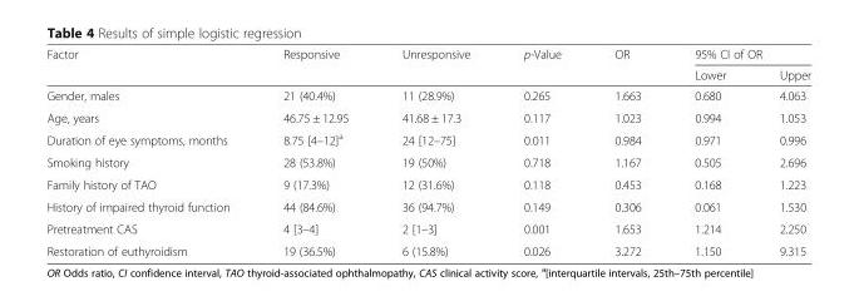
<table><thead><tr><td rowspan="2">Factor</td><td rowspan="2">Responsive</td><td rowspan="2">Unresponsive</td><td rowspan="2">p-Value</td><td rowspan="2">OR</td><td colspan="2">95% CI of OR</td></tr><tr><td>Lower</td><td>Upper</td></tr></thead><tbody><tr><td>Gender, males</td><td>21 (40.4%)</td><td>11 (28.9%)</td><td>0.265</td><td>1.663</td><td>0.680</td><td>4.063</td></tr><tr><td>Age, years</td><td>46.75 ± 12.95</td><td>41.68 ± 17.3</td><td>0.117</td><td>1.023</td><td>0.994</td><td>1.053</td></tr><tr><td>Duration of eye symptoms, months</td><td>8.75 [4–12]<sup>a</sup></td><td>24 [12–75]</td><td>0.011</td><td>0.984</td><td>0.971</td><td>0.996</td></tr><tr><td>Smoking history</td><td>28 (53.8%)</td><td>19 (50%)</td><td>0.718</td><td>1.167</td><td>0.505</td><td>2.696</td></tr><tr><td>Family history of TAO</td><td>9 (17.3%)</td><td>12 (31.6%)</td><td>0.118</td><td>0.453</td><td>0.168</td><td>1.223</td></tr><tr><td>History of impaired thyroid function</td><td>44 (84.6%)</td><td>36 (94.7%)</td><td>0.149</td><td>0.306</td><td>0.061</td><td>1.530</td></tr><tr><td>Pretreatment CAS</td><td>4 [3–4]</td><td>2 [1–3]</td><td>0.001</td><td>1.653</td><td>1.214</td><td>2.250</td></tr><tr><td>Restoration of euthyroidism</td><td>19 (36.5%)</td><td>6 (15.8%)</td><td>0.026</td><td>3.272</td><td>1.150</td><td>9.315</td></tr></tbody></table>